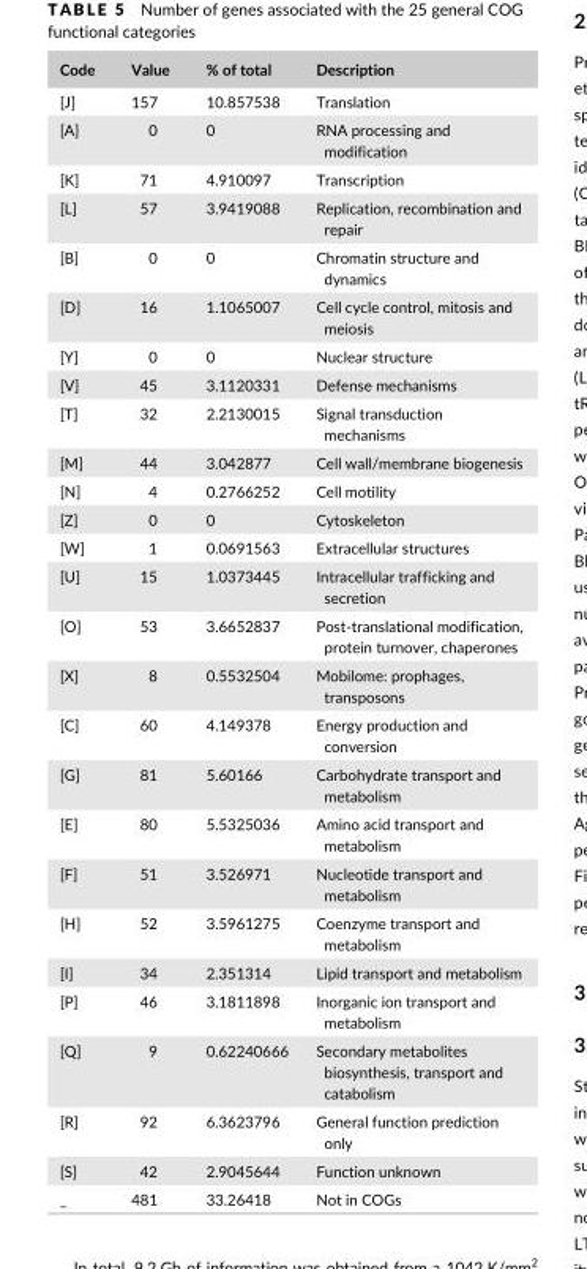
<table><thead><tr><td>Code</td><td>Value</td><td>% of total</td><td>Description</td></tr></thead><tbody><tr><td>[J]</td><td>157</td><td>10.857538</td><td>Translation</td></tr><tr><td>[A]</td><td>0</td><td>0</td><td>RNA processing and modification</td></tr><tr><td>[K]</td><td>71</td><td>4.910097</td><td>Transcription</td></tr><tr><td>[L]</td><td>57</td><td>3.9419088</td><td>Replication, recombination and repair</td></tr><tr><td>[B]</td><td>0</td><td>0</td><td>Chromatin structure and dynamics</td></tr><tr><td>[D]</td><td>16</td><td>1.1065007</td><td>Cell cycle control, mitosis and meiosis</td></tr><tr><td>[Y]</td><td>0</td><td>0</td><td>Nuclear structure</td></tr><tr><td>[V]</td><td>45</td><td>3.1120331</td><td>Defense mechanisms</td></tr><tr><td>[T]</td><td>32</td><td>2.2130015</td><td>Signal transduction mechanisms</td></tr><tr><td>[M]</td><td>44</td><td>3.042877</td><td>Cell wall/membrane biogenesis</td></tr><tr><td>[N]</td><td>4</td><td>0.2766252</td><td>Cell motility</td></tr><tr><td>[Z]</td><td>0</td><td>0</td><td>Cytoskeleton</td></tr><tr><td>[W]</td><td>1</td><td>0.0691563</td><td>Extracellular structures</td></tr><tr><td>[U]</td><td>15</td><td>1.0373445</td><td>Intracellular trafficking and secretion</td></tr><tr><td>[O]</td><td>53</td><td>3.6652837</td><td>Post- translational modification, protein turnover, chaperones</td></tr><tr><td>[X]</td><td>8</td><td>0.5532504</td><td>Mobilome: prophages, transposons</td></tr><tr><td>[C]</td><td>60</td><td>4.149378</td><td>Energy production and conversion</td></tr><tr><td>[G]</td><td>81</td><td>5.60166</td><td>Carbohydrate transport and metabolism</td></tr><tr><td>[E]</td><td>80</td><td>5.5325036</td><td>Amino acid transport and metabolism</td></tr><tr><td>[F]</td><td>51</td><td>3.526971</td><td>Nucleotide transport and metabolism</td></tr><tr><td>[H]</td><td>52</td><td>3.5961275</td><td>Coenzyme transport and metabolism</td></tr><tr><td>[I]</td><td>34</td><td>2.351314</td><td>Lipid transport and metabolism</td></tr><tr><td>[P]</td><td>46</td><td>3.1811898</td><td>Inorganic ion transport and metabolism</td></tr><tr><td>[Q]</td><td>9</td><td>0.62240666</td><td>Secondary metabolites biosynthesis, transport and catabolism</td></tr><tr><td>[R]</td><td>92</td><td>6.3623796</td><td>General function prediction only</td></tr><tr><td>[S]</td><td>42</td><td>2.9045644</td><td>Function unknown</td></tr><tr><td>_</td><td>481</td><td>33.26418</td><td>Not in COGs</td></tr></tbody></table>